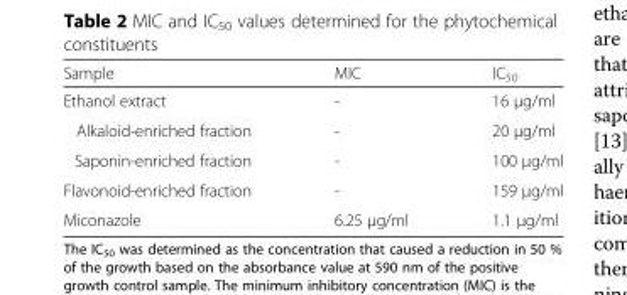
<table><thead><tr><td>Sample</td><td>MIC</td><td>IC<sub>50</sub></td></tr></thead><tbody><tr><td>Ethanol extract</td><td>-</td><td>16 μg/ml</td></tr><tr><td>Alkaloid-enriched fraction</td><td>-</td><td>20 μg/ml</td></tr><tr><td>Saponin-enriched fraction</td><td>-</td><td>100 μg/ml</td></tr><tr><td>Flavonoid-enriched fraction</td><td>-</td><td>159 μg/ml</td></tr><tr><td>Miconazole</td><td>6.25 μg/ml</td><td>1.1 μg/ml</td></tr></tbody></table>